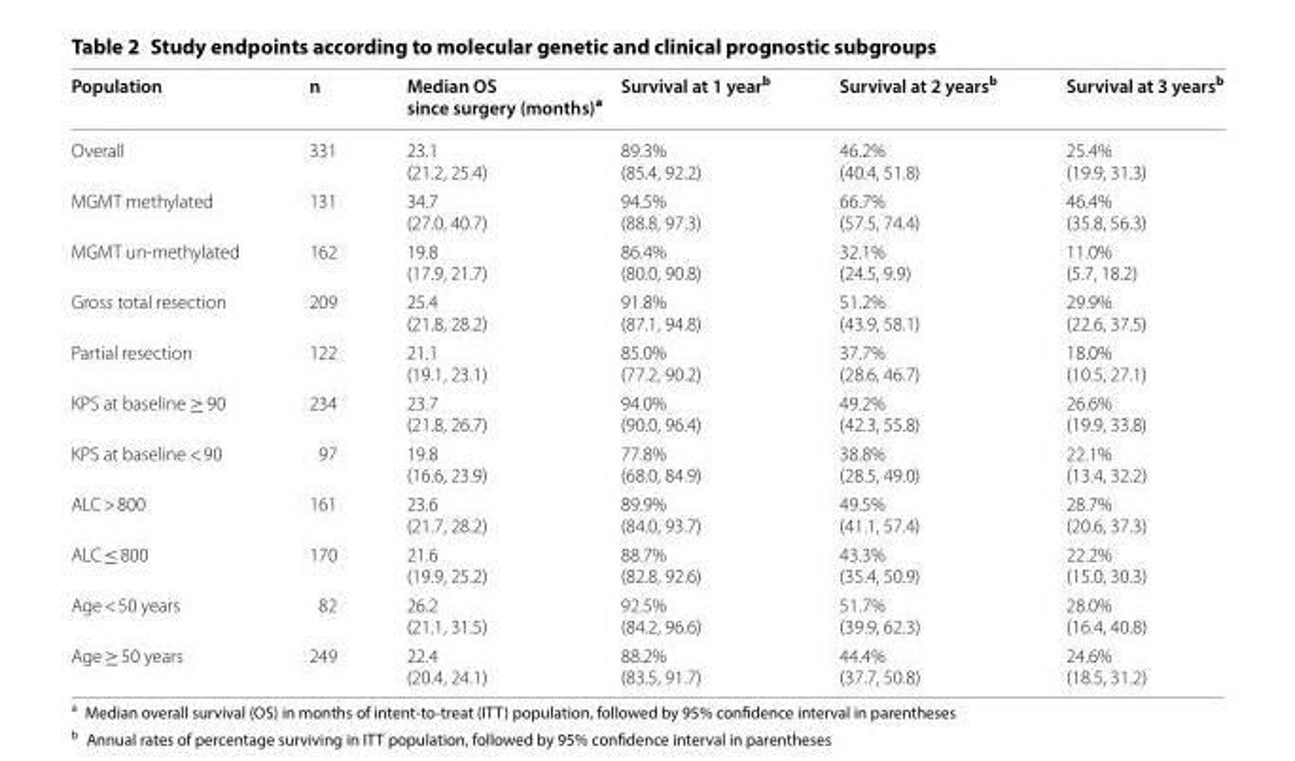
<table><thead><tr><td>Population</td><td>n</td><td>Median OS since surgery (months)<sup>a</sup></td><td>Survival at 1 year<sup>b</sup></td><td>Survival at 2 years<sup>b</sup></td><td>Survival at 3 years<sup>b</sup></td></tr></thead><tbody><tr><td>Overall</td><td>331</td><td>23.1 (21.2, 25.4)</td><td>89.3% (85.4, 92.2)</td><td>46.2% (40.4, 51.8)</td><td>25.4% (19.9, 31.3)</td></tr><tr><td>MGMT methylated</td><td>131</td><td>34.7 (27.0, 40.7)</td><td>94.5% (88.8, 97.3)</td><td>66.7% (57.5, 74.4)</td><td>46.4% (35.8, 56.3)</td></tr><tr><td>MGMT un‑methylated</td><td>162</td><td>19.8 (17.9, 21.7)</td><td>86.4% (80.0, 90.8)</td><td>32.1% (24.5, 9.9)</td><td>11.0% (5.7, 18.2)</td></tr><tr><td>Gross total resection</td><td>209</td><td>25.4 (21.8, 28.2)</td><td>91.8% (87.1, 94.8)</td><td>51.2% (43.9, 58.1)</td><td>29.9% (22.6, 37.5)</td></tr><tr><td>Partial resection</td><td>122</td><td>21.1 (19.1, 23.1)</td><td>85.0% (77.2, 90.2)</td><td>37.7% (28.6, 46.7)</td><td>18.0% (10.5, 27.1)</td></tr><tr><td>KPS at baseline ≥ 90</td><td>234</td><td>23.7 (21.8, 26.7)</td><td>94.0% (90.0, 96.4)</td><td>49.2% (42.3, 55.8)</td><td>26.6% (19.9, 33.8)</td></tr><tr><td>KPS at baseline &lt; 90</td><td>97</td><td>19.8 (16.6, 23.9)</td><td>77.8% (68.0, 84.9)</td><td>38.8% (28.5, 49.0)</td><td>22.1% (13.4, 32.2)</td></tr><tr><td>ALC &gt; 800</td><td>161</td><td>23.6 (21.7, 28.2)</td><td>89.9% (84.0, 93.7)</td><td>49.5% (41.1, 57.4)</td><td>28.7% (20.6, 37.3)</td></tr><tr><td>ALC ≤ 800</td><td>170</td><td>21.6 (19.9, 25.2)</td><td>88.7% (82.8, 92.6)</td><td>43.3% (35.4, 50.9)</td><td>22.2% (15.0, 30.3)</td></tr><tr><td>Age &lt; 50 years</td><td>82</td><td>26.2 (21.1, 31.5)</td><td>92.5% (84.2, 96.6)</td><td>51.7% (39.9, 62.3)</td><td>28.0% (16.4, 40.8)</td></tr><tr><td>Age ≥ 50 years</td><td>249</td><td>22.4 (20.4, 24.1)</td><td>88.2% (83.5, 91.7)</td><td>44.4% (37.7, 50.8)</td><td>24.6% (18.5, 31.2)</td></tr></tbody></table>